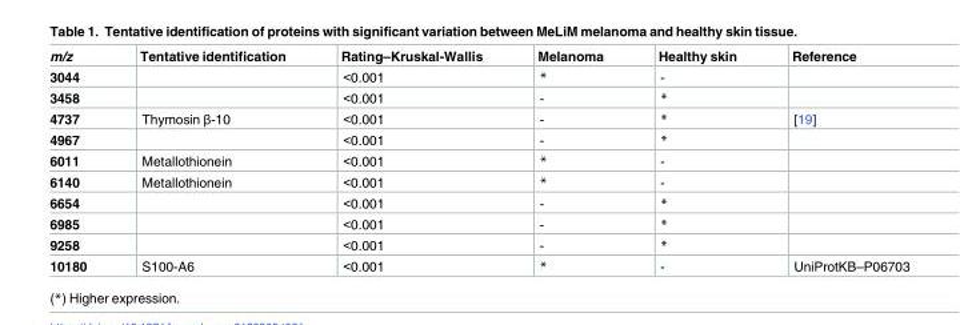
<table><thead><tr><td>m/z</td><td>Tentative identification</td><td>Rating–Kruskal-Wallis</td><td>Melanoma</td><td>Healthy skin</td><td>Reference</td></tr></thead><tbody><tr><td>3044</td><td></td><td>&lt;0.001</td><td>*</td><td>-</td><td></td></tr><tr><td>3458</td><td></td><td>&lt;0.001</td><td>-</td><td>*</td><td></td></tr><tr><td>4737</td><td>Thymosin β-10</td><td>&lt;0.001</td><td>-</td><td>*</td><td>[19]</td></tr><tr><td>4967</td><td></td><td>&lt;0.001</td><td>-</td><td>*</td><td></td></tr><tr><td>6011</td><td>Metallothionein</td><td>&lt;0.001</td><td>*</td><td>-</td><td></td></tr><tr><td>6140</td><td>Metallothionein</td><td>&lt;0.001</td><td>*</td><td>-</td><td></td></tr><tr><td>6654</td><td></td><td>&lt;0.001</td><td>-</td><td>*</td><td></td></tr><tr><td>6985</td><td></td><td>&lt;0.001</td><td>-</td><td>*</td><td></td></tr><tr><td>9258</td><td></td><td>&lt;0.001</td><td>-</td><td>*</td><td></td></tr><tr><td>10180</td><td>S100-A6</td><td>&lt;0.001</td><td>*</td><td>-</td><td>UniProtKB–P06703</td></tr></tbody></table>